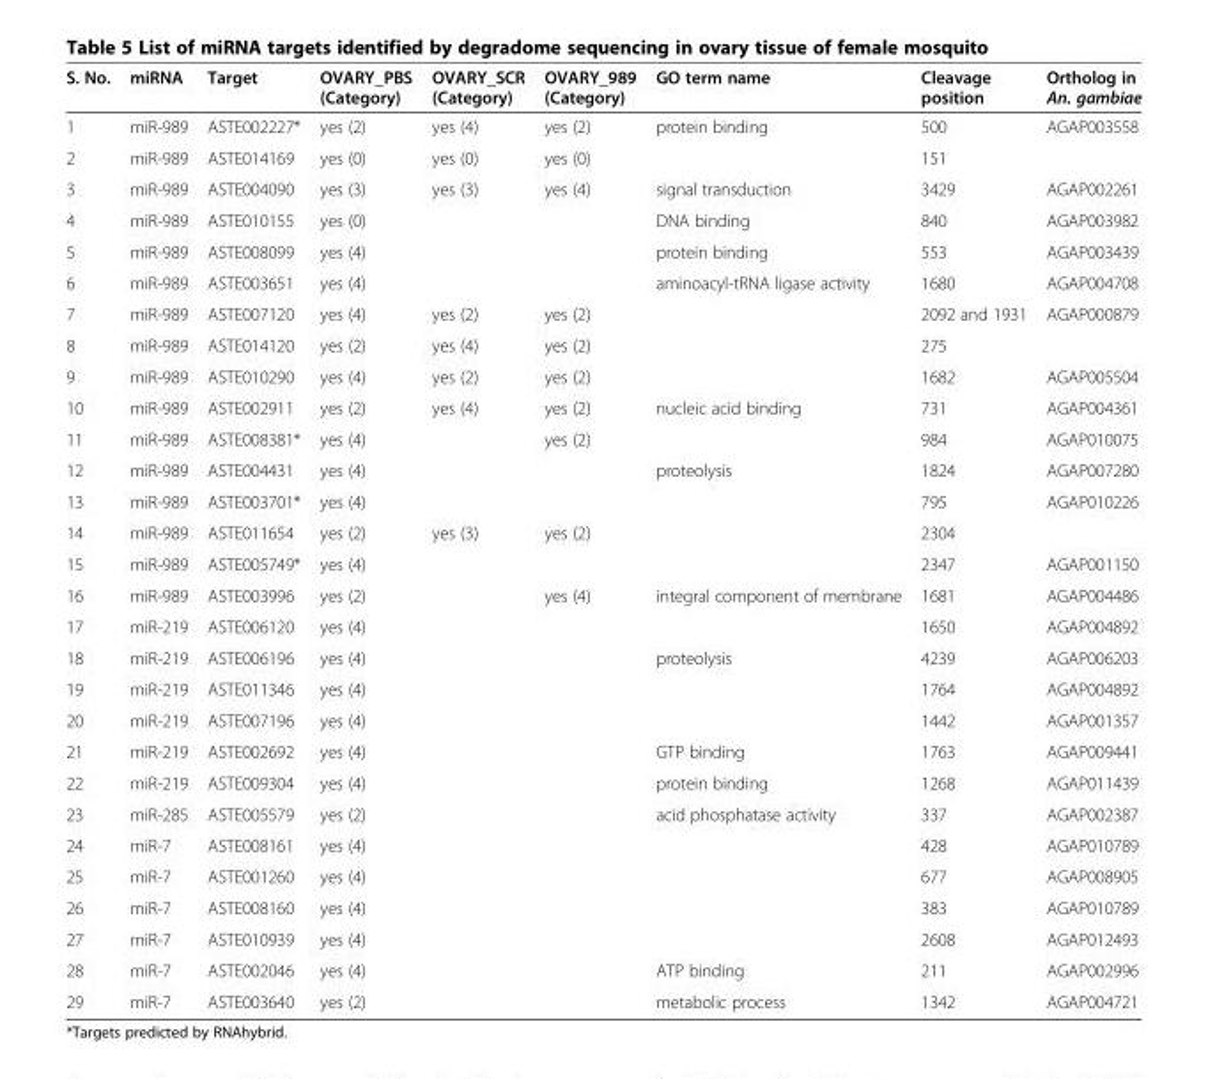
<table><thead><tr><td>S. No.</td><td>miRNA</td><td>Target</td><td>OVARY_PBS (Category)</td><td>OVARY_SCR (Category)</td><td>OVARY_989 (Category)</td><td>GO term name</td><td>Cleavage position</td><td>Ortholog in An. gambiae</td></tr></thead><tbody><tr><td>1</td><td>miR-989</td><td>ASTE002227*</td><td>yes (2)</td><td>yes (4)</td><td>yes (2)</td><td>protein binding</td><td>500</td><td>AGAP003558</td></tr><tr><td>2</td><td>miR-989</td><td>ASTE014169</td><td>yes (0)</td><td>yes (0)</td><td>yes (0)</td><td></td><td>151</td><td></td></tr><tr><td>3</td><td>miR-989</td><td>ASTE004090</td><td>yes (3)</td><td>yes (3)</td><td>yes (4)</td><td>signal transduction</td><td>3429</td><td>AGAP002261</td></tr><tr><td>4</td><td>miR-989</td><td>ASTE010155</td><td>yes (0)</td><td></td><td></td><td>DNA binding</td><td>840</td><td>AGAP003982</td></tr><tr><td>5</td><td>miR-989</td><td>ASTE008099</td><td>yes (4)</td><td></td><td></td><td>protein binding</td><td>553</td><td>AGAP003439</td></tr><tr><td>6</td><td>miR-989</td><td>ASTE003651</td><td>yes (4)</td><td></td><td></td><td>aminoacyl-tRNA ligase activity</td><td>1680</td><td>AGAP004708</td></tr><tr><td>7</td><td>miR-989</td><td>ASTE007120</td><td>yes (4)</td><td>yes (2)</td><td>yes (2)</td><td></td><td>2092 and 1931</td><td>AGAP000879</td></tr><tr><td>8</td><td>miR-989</td><td>ASTE014120</td><td>yes (2)</td><td>yes (4)</td><td>yes (2)</td><td></td><td>275</td><td></td></tr><tr><td>9</td><td>miR-989</td><td>ASTE010290</td><td>yes (4)</td><td>yes (2)</td><td>yes (2)</td><td></td><td>1682</td><td>AGAP005504</td></tr><tr><td>10</td><td>miR-989</td><td>ASTE002911</td><td>yes (2)</td><td>yes (4)</td><td>yes (2)</td><td>nucleic acid binding</td><td>731</td><td>AGAP004361</td></tr><tr><td>11</td><td>miR-989</td><td>ASTE008381*</td><td>yes (4)</td><td></td><td>yes (2)</td><td></td><td>984</td><td>AGAP010075</td></tr><tr><td>12</td><td>miR-989</td><td>ASTE004431</td><td>yes (4)</td><td></td><td></td><td>proteolysis</td><td>1824</td><td>AGAP007280</td></tr><tr><td>13</td><td>miR-989</td><td>ASTE003701*</td><td>yes (4)</td><td></td><td></td><td></td><td>795</td><td>AGAP010226</td></tr><tr><td>14</td><td>miR-989</td><td>ASTE011654</td><td>yes (2)</td><td>yes (3)</td><td>yes (2)</td><td></td><td>2304</td><td></td></tr><tr><td>15</td><td>miR-989</td><td>ASTE005749*</td><td>yes (4)</td><td></td><td></td><td></td><td>2347</td><td>AGAP001150</td></tr><tr><td>16</td><td>miR-989</td><td>ASTE003996</td><td>yes (2)</td><td></td><td>yes (4)</td><td>integral component of membrane</td><td>1681</td><td>AGAP004486</td></tr><tr><td>17</td><td>miR-219</td><td>ASTE006120</td><td>yes (4)</td><td></td><td></td><td></td><td>1650</td><td>AGAP004892</td></tr><tr><td>18</td><td>miR-219</td><td>ASTE006196</td><td>yes (4)</td><td></td><td></td><td>proteolysis</td><td>4239</td><td>AGAP006203</td></tr><tr><td>19</td><td>miR-219</td><td>ASTE011346</td><td>yes (4)</td><td></td><td></td><td></td><td>1764</td><td>AGAP004892</td></tr><tr><td>20</td><td>miR-219</td><td>ASTE007196</td><td>yes (4)</td><td></td><td></td><td></td><td>1442</td><td>AGAP001357</td></tr><tr><td>21</td><td>miR-219</td><td>ASTE002692</td><td>yes (4)</td><td></td><td></td><td>GTP binding</td><td>1763</td><td>AGAP009441</td></tr><tr><td>22</td><td>miR-219</td><td>ASTE009304</td><td>yes (4)</td><td></td><td></td><td>protein binding</td><td>1268</td><td>AGAP011439</td></tr><tr><td>23</td><td>miR-285</td><td>ASTE005579</td><td>yes (2)</td><td></td><td></td><td>acid phosphatase activity</td><td>337</td><td>AGAP002387</td></tr><tr><td>24</td><td>miR-7</td><td>ASTE008161</td><td>yes (4)</td><td></td><td></td><td></td><td>428</td><td>AGAP010789</td></tr><tr><td>25</td><td>miR-7</td><td>ASTE001260</td><td>yes (4)</td><td></td><td></td><td></td><td>677</td><td>AGAP008905</td></tr><tr><td>26</td><td>miR-7</td><td>ASTE008160</td><td>yes (4)</td><td></td><td></td><td></td><td>383</td><td>AGAP010789</td></tr><tr><td>27</td><td>miR-7</td><td>ASTE010939</td><td>yes (4)</td><td></td><td></td><td></td><td>2608</td><td>AGAP012493</td></tr><tr><td>28</td><td>miR-7</td><td>ASTE002046</td><td>yes (4)</td><td></td><td></td><td>ATP binding</td><td>211</td><td>AGAP002996</td></tr><tr><td>29</td><td>miR-7</td><td>ASTE003640</td><td>yes (2)</td><td></td><td></td><td>metabolic process</td><td>1342</td><td>AGAP004721</td></tr></tbody></table>